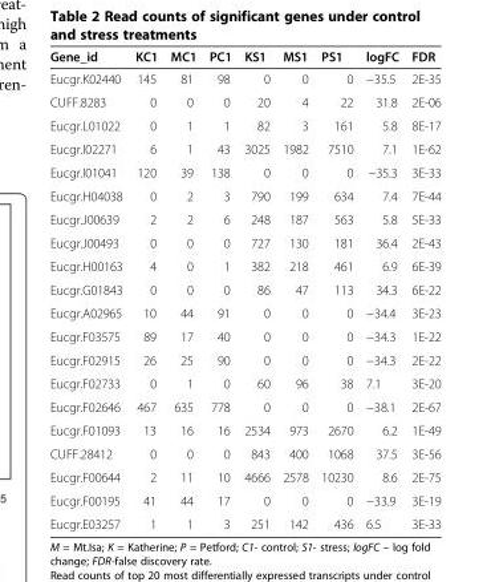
<table><thead><tr><td>Gene_id</td><td>KC1</td><td>MC1</td><td>PC1</td><td>KS1</td><td>MS1</td><td>PS1</td><td>logFC</td><td>FDR</td></tr></thead><tbody><tr><td>Eucgr.K02440</td><td>145</td><td>81</td><td>98</td><td>0</td><td>0</td><td>0</td><td>−35.5</td><td>2E-35</td></tr><tr><td>CUFF.8283</td><td>0</td><td>0</td><td>0</td><td>20</td><td>4</td><td>22</td><td>31.8</td><td>2E-06</td></tr><tr><td>Eucgr.L01022</td><td>0</td><td>1</td><td>1</td><td>82</td><td>3</td><td>161</td><td>5.8</td><td>8E-17</td></tr><tr><td>Eucgr.I02271</td><td>6</td><td>1</td><td>43</td><td>3025</td><td>1982</td><td>7510</td><td>7.1</td><td>1E-62</td></tr><tr><td>Eucgr.I01041</td><td>120</td><td>39</td><td>138</td><td>0</td><td>0</td><td>0</td><td>−35.3</td><td>3E-33</td></tr><tr><td>Eucgr.H04038</td><td>0</td><td>2</td><td>3</td><td>790</td><td>199</td><td>634</td><td>7.4</td><td>7E-44</td></tr><tr><td>Eucgr.J00639</td><td>2</td><td>2</td><td>6</td><td>248</td><td>187</td><td>563</td><td>5.8</td><td>5E-33</td></tr><tr><td>Eucgr.J00493</td><td>0</td><td>0</td><td>0</td><td>727</td><td>130</td><td>181</td><td>36.4</td><td>2E-43</td></tr><tr><td>Eucgr.H00163</td><td>4</td><td>0</td><td>1</td><td>382</td><td>218</td><td>461</td><td>6.9</td><td>6E-39</td></tr><tr><td>Eucgr.G01843</td><td>0</td><td>0</td><td>0</td><td>86</td><td>47</td><td>113</td><td>34.3</td><td>6E-22</td></tr><tr><td>Eucgr.A02965</td><td>10</td><td>44</td><td>91</td><td>0</td><td>0</td><td>0</td><td>−34.4</td><td>3E-23</td></tr><tr><td>Eucgr.F03575</td><td>89</td><td>17</td><td>40</td><td>0</td><td>0</td><td>0</td><td>−34.3</td><td>1E-22</td></tr><tr><td>Eucgr.F02915</td><td>26</td><td>25</td><td>90</td><td>0</td><td>0</td><td>0</td><td>−34.3</td><td>2E-22</td></tr><tr><td>Eucgr.F02733</td><td>0</td><td>1</td><td>0</td><td>60</td><td>96</td><td>38</td><td>7.1</td><td>3E-20</td></tr><tr><td>Eucgr.F02646</td><td>467</td><td>635</td><td>778</td><td>0</td><td>0</td><td>0</td><td>−38.1</td><td>2E-67</td></tr><tr><td>Eucgr.F01093</td><td>13</td><td>16</td><td>16</td><td>2534</td><td>973</td><td>2670</td><td>6.2</td><td>1E-49</td></tr><tr><td>CUFF.28412</td><td>0</td><td>0</td><td>0</td><td>843</td><td>400</td><td>1068</td><td>37.5</td><td>3E-56</td></tr><tr><td>Eucgr.F00644</td><td>2</td><td>11</td><td>10</td><td>4666</td><td>2578</td><td>10230</td><td>8.6</td><td>2E-75</td></tr><tr><td>Eucgr.F00195</td><td>41</td><td>44</td><td>17</td><td>0</td><td>0</td><td>0</td><td>−33.9</td><td>3E-19</td></tr><tr><td>Eucgr.E03257</td><td>1</td><td>1</td><td>3</td><td>251</td><td>142</td><td>436</td><td>6.5</td><td>3E-33</td></tr></tbody></table>